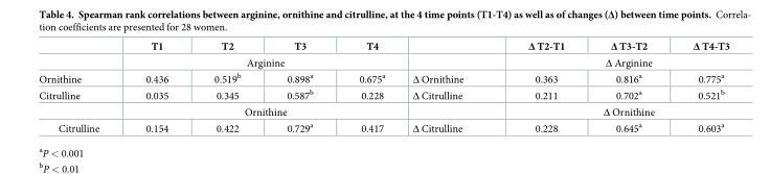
<table><thead><tr><td></td><td>T1</td><td>T2</td><td>T3</td><td>T4</td><td></td><td>Δ T2-T1</td><td>Δ T3-T2</td><td>Δ T4-T3</td></tr></thead><tbody><tr><td></td><td colspan="4">Arginine</td><td></td><td colspan="3">Δ Arginine</td></tr><tr><td>Ornithine</td><td>0.436</td><td>0.519<sup>b</sup></td><td>0.898<sup>a</sup></td><td>0.675<sup>a</sup></td><td>Δ Ornithine</td><td>0.363</td><td>0.816<sup>a</sup></td><td>0.775<sup>a</sup></td></tr><tr><td rowspan="2">Citrulline</td><td>0.035</td><td>0.345</td><td>0.587<sup>b</sup></td><td>0.228</td><td>Δ Citrulline</td><td>0.211</td><td>0.702<sup>a</sup></td><td>0.521<sup>b</sup></td></tr><tr><td colspan="4">Ornithine</td><td></td><td colspan="3">Δ Ornithine</td></tr><tr><td>Citrulline</td><td>0.154</td><td>0.422</td><td>0.729<sup>a</sup></td><td>0.417</td><td>Δ Citrulline</td><td>0.228</td><td>0.645<sup>a</sup></td><td>0.603<sup>a</sup></td></tr></tbody></table>